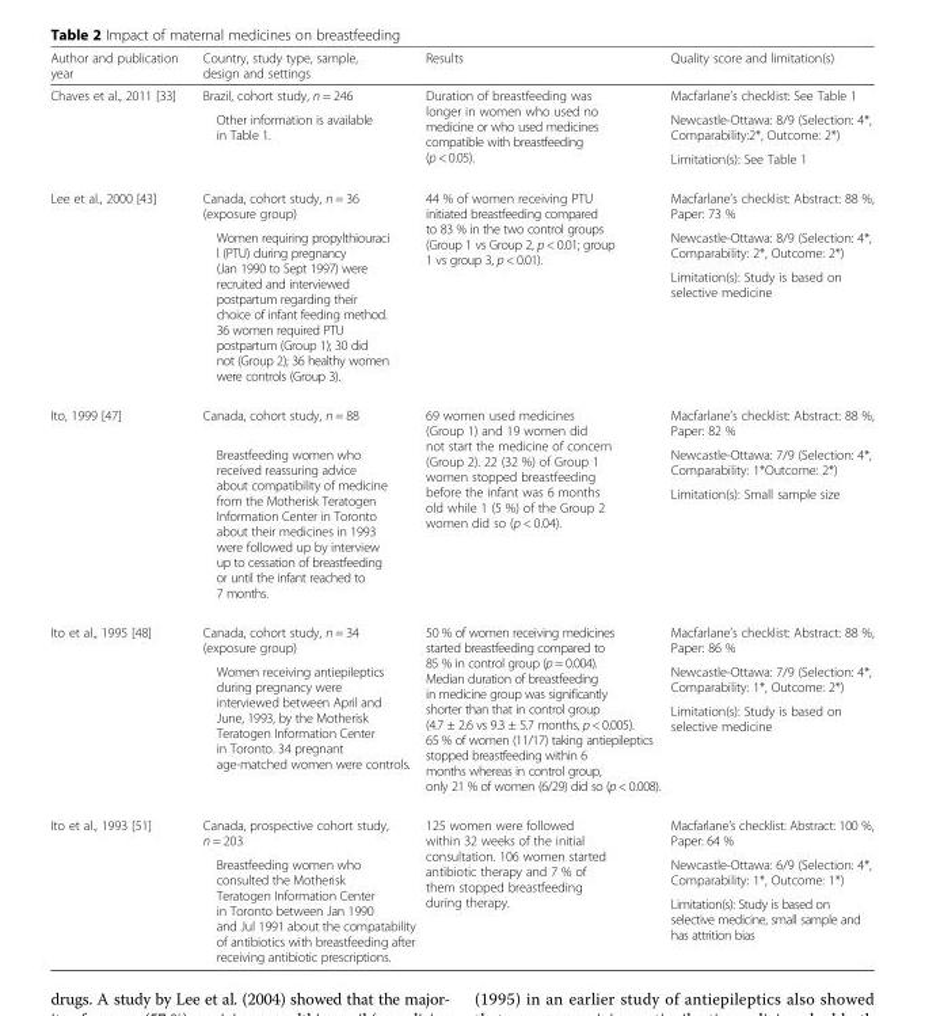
<table><thead><tr><td>Author and publication year</td><td>Country, study type, sample, design and settings</td><td>Results</td><td>Quality score and limitation(s)</td></tr></thead><tbody><tr><td rowspan="3">Chaves et al., 2011 [33]</td><td>Brazil, cohort study, n = 246</td><td rowspan="3">Duration of breastfeeding was longer in women who used no medicine or who used medicines compatible with breastfeeding (p &lt; 0.05).</td><td>Macfarlane’s checklist: See Table 1</td></tr><tr><td rowspan="2">Other information is available in Table 1.</td><td>Newcastle-Ottawa: 8/9 (Selection: 4*, Comparability:2*, Outcome: 2*)</td></tr><tr><td>Limitation(s): See Table 1</td></tr><tr><td rowspan="3">Lee et al., 2000 [43]</td><td>Canada, cohort study, n = 36 (exposure group)</td><td rowspan="3">44 % of women receiving PTU initiated breastfeeding compared to 83 % in the two control groups (Group 1 vs Group 2, p &lt; 0.01; group 1 vs group 3, p &lt; 0.01).</td><td>Macfarlane’s checklist: Abstract: 88 %, Paper: 73 %</td></tr><tr><td rowspan="2">Women requiring propylthiouraci l (PTU) during pregnancy (Jan 1990 to Sept 1997) were recruited and interviewed postpartum regarding their choice of infant feeding method. 36 women required PTU postpartum (Group 1); 30 did not (Group 2); 36 healthy women were controls (Group 3).</td><td>Newcastle-Ottawa: 8/9 (Selection: 4*, Comparability: 2*, Outcome: 2*)</td></tr><tr><td>Limitation(s): Study is based on selective medicine</td></tr><tr><td rowspan="3">Ito, 1999 [47]</td><td>Canada, cohort study, n = 88</td><td rowspan="3">69 women used medicines (Group 1) and 19 women did not start the medicine of concern (Group 2). 22 (32 %) of Group 1 women stopped breastfeeding before the infant was 6 months old while 1 (5 %) of the Group 2 women did so (p &lt; 0.04).</td><td>Macfarlane’s checklist: Abstract: 88 %, Paper: 82 %</td></tr><tr><td rowspan="2">Breastfeeding women who received reassuring advice about compatibility of medicine from the Motherisk Teratogen Information Center in Toronto about their medicines in 1993 were followed up by interview up to cessation of breastfeeding or until the infant reached to 7 months.</td><td>Newcastle-Ottawa: 7/9 (Selection: 4*, Comparability: 1*Outcome: 2*)</td></tr><tr><td>Limitation(s): Small sample size</td></tr><tr><td rowspan="3">Ito et al., 1995 [48]</td><td>Canada, cohort study, n = 34 (exposure group)</td><td rowspan="3">50 % of women receiving medicines started breastfeeding compared to 85 % in control group (p = 0.004). Median duration of breastfeeding in medicine group was significantly shorter than that in control group (4.7 ± 2.6 vs 9.3 ± 5.7 months, p &lt; 0.005). 65 % of women (11/17) taking antiepileptics stopped breastfeeding within 6 months whereas in control group, only 21 % of women (6/29) did so (p &lt; 0.008).</td><td>Macfarlane’s checklist: Abstract: 88 %, Paper: 86 %</td></tr><tr><td rowspan="2">Women receiving antiepileptics during pregnancy were interviewed between April and June, 1993, by the Motherisk Teratogen Information Center in Toronto. 34 pregnant age-matched women were controls.</td><td>Newcastle-Ottawa: 7/9 (Selection: 4*, Comparability: 1*, Outcome: 2*)</td></tr><tr><td>Limitation(s): Study is based on selective medicine</td></tr><tr><td rowspan="3">Ito et al., 1993 [51]</td><td>Canada, prospective cohort study, n = 203</td><td rowspan="3">125 women were followed within 32 weeks of the initial consultation. 106 women started antibiotic therapy and 7 % of them stopped breastfeeding during therapy.</td><td>Macfarlane’s checklist: Abstract: 100 %, Paper: 64 %</td></tr><tr><td rowspan="2">Breastfeeding women who consulted the Motherisk Teratogen Information Center in Toronto between Jan 1990 and Jul 1991 about the compatability of antibiotics with breastfeeding after receiving antibiotic prescriptions.</td><td>Newcastle-Ottawa: 6/9 (Selection: 4*, Comparability: 1*, Outcome: 1*)</td></tr><tr><td>Limitation(s): Study is based on selective medicine, small sample and has attrition bias</td></tr></tbody></table>